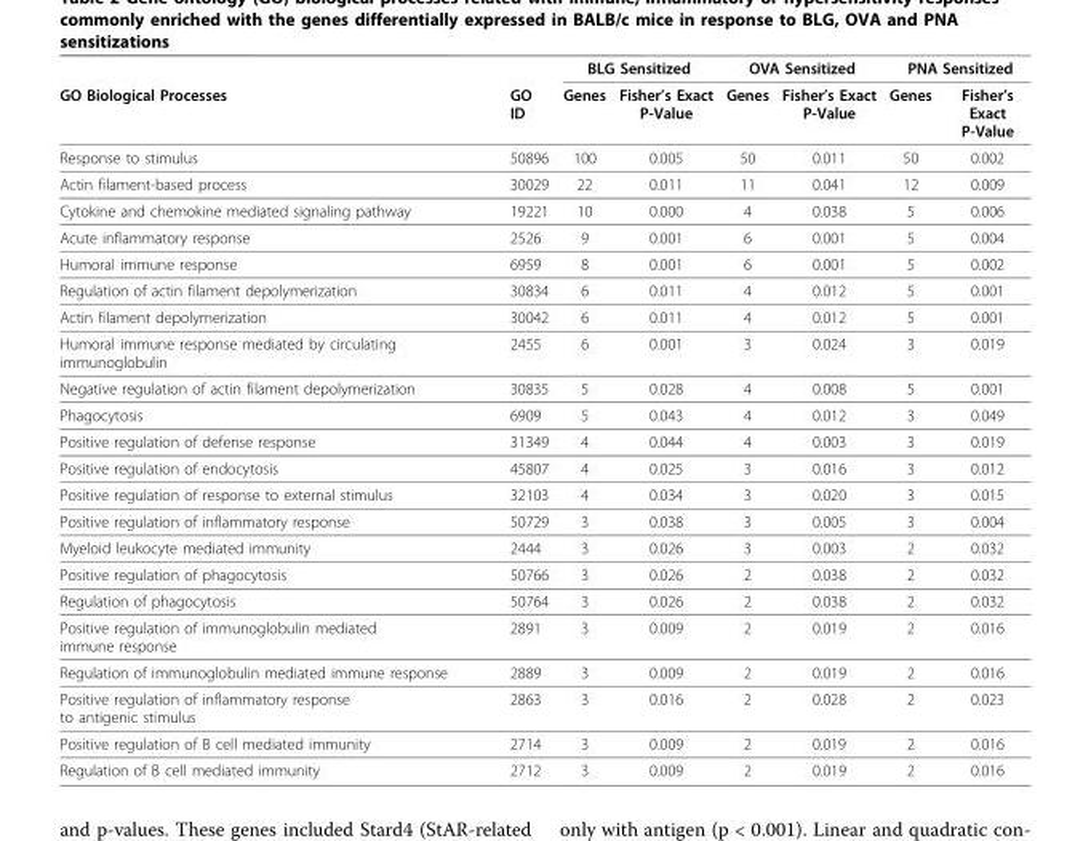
<table><thead><tr><td rowspan="2">GO Biological Processes</td><td rowspan="2">GO ID</td><td colspan="2">BLG Sensitized</td><td colspan="2">OVA Sensitized</td><td colspan="2">PNA Sensitized</td></tr><tr><td>Genes</td><td>Fisher’s Exact P-Value</td><td>Genes</td><td>Fisher’s Exact P-Value</td><td>Genes</td><td>Fisher’s Exact P-Value</td></tr></thead><tbody><tr><td>Response to stimulus</td><td>50896</td><td>100</td><td>0.005</td><td>50</td><td>0.011</td><td>50</td><td>0.002</td></tr><tr><td>Actin filament-based process</td><td>30029</td><td>22</td><td>0.011</td><td>11</td><td>0.041</td><td>12</td><td>0.009</td></tr><tr><td>Cytokine and chemokine mediated signaling pathway</td><td>19221</td><td>10</td><td>0.000</td><td>4</td><td>0.038</td><td>5</td><td>0.006</td></tr><tr><td>Acute inflammatory response</td><td>2526</td><td>9</td><td>0.001</td><td>6</td><td>0.001</td><td>5</td><td>0.004</td></tr><tr><td>Humoral immune response</td><td>6959</td><td>8</td><td>0.001</td><td>6</td><td>0.001</td><td>5</td><td>0.002</td></tr><tr><td>Regulation of actin filament depolymerization</td><td>30834</td><td>6</td><td>0.011</td><td>4</td><td>0.012</td><td>5</td><td>0.001</td></tr><tr><td>Actin filament depolymerization</td><td>30042</td><td>6</td><td>0.011</td><td>4</td><td>0.012</td><td>5</td><td>0.001</td></tr><tr><td>Humoral immune response mediated by circulating immunoglobulin</td><td>2455</td><td>6</td><td>0.001</td><td>3</td><td>0.024</td><td>3</td><td>0.019</td></tr><tr><td>Negative regulation of actin filament depolymerization</td><td>30835</td><td>5</td><td>0.028</td><td>4</td><td>0.008</td><td>5</td><td>0.001</td></tr><tr><td>Phagocytosis</td><td>6909</td><td>5</td><td>0.043</td><td>4</td><td>0.012</td><td>3</td><td>0.049</td></tr><tr><td>Positive regulation of defense response</td><td>31349</td><td>4</td><td>0.044</td><td>4</td><td>0.003</td><td>3</td><td>0.019</td></tr><tr><td>Positive regulation of endocytosis</td><td>45807</td><td>4</td><td>0.025</td><td>3</td><td>0.016</td><td>3</td><td>0.012</td></tr><tr><td>Positive regulation of response to external stimulus</td><td>32103</td><td>4</td><td>0.034</td><td>3</td><td>0.020</td><td>3</td><td>0.015</td></tr><tr><td>Positive regulation of inflammatory response</td><td>50729</td><td>3</td><td>0.038</td><td>3</td><td>0.005</td><td>3</td><td>0.004</td></tr><tr><td>Myeloid leukocyte mediated immunity</td><td>2444</td><td>3</td><td>0.026</td><td>3</td><td>0.003</td><td>2</td><td>0.032</td></tr><tr><td>Positive regulation of phagocytosis</td><td>50766</td><td>3</td><td>0.026</td><td>2</td><td>0.038</td><td>2</td><td>0.032</td></tr><tr><td>Regulation of phagocytosis</td><td>50764</td><td>3</td><td>0.026</td><td>2</td><td>0.038</td><td>2</td><td>0.032</td></tr><tr><td>Positive regulation of immunoglobulin mediated immune response</td><td>2891</td><td>3</td><td>0.009</td><td>2</td><td>0.019</td><td>2</td><td>0.016</td></tr><tr><td>Regulation of immunoglobulin mediated immune response</td><td>2889</td><td>3</td><td>0.009</td><td>2</td><td>0.019</td><td>2</td><td>0.016</td></tr><tr><td>Positive regulation of inflammatory response to antigenic stimulus</td><td>2863</td><td>3</td><td>0.016</td><td>2</td><td>0.028</td><td>2</td><td>0.023</td></tr><tr><td>Positive regulation of B cell mediated immunity</td><td>2714</td><td>3</td><td>0.009</td><td>2</td><td>0.019</td><td>2</td><td>0.016</td></tr><tr><td>Regulation of B cell mediated immunity</td><td>2712</td><td>3</td><td>0.009</td><td>2</td><td>0.019</td><td>2</td><td>0.016</td></tr></tbody></table>